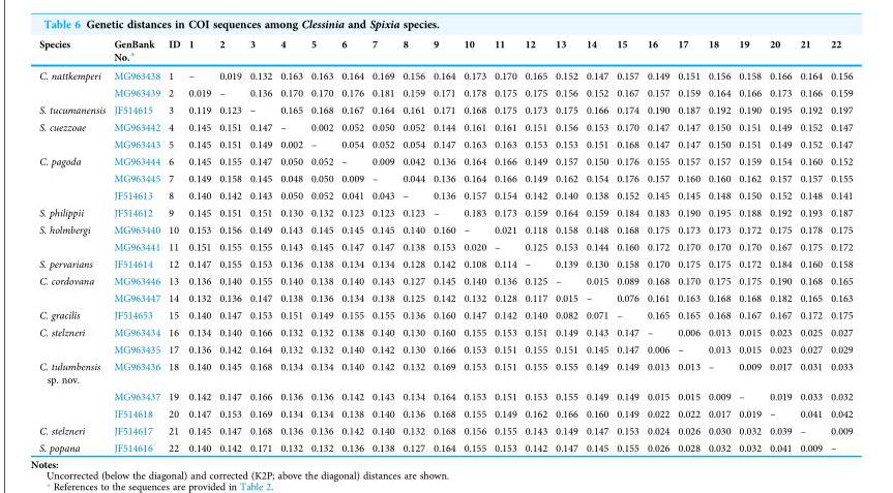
<table><thead><tr><td>Species</td><td>GenBank No.*</td><td>ID</td><td>1</td><td>2</td><td>3</td><td>4</td><td>5</td><td>6</td><td>7</td><td>8</td><td>9</td><td>10</td><td>11</td><td>12</td><td>13</td><td>14</td><td>15</td><td>16</td><td>17</td><td>18</td><td>19</td><td>20</td><td>21</td><td>22</td></tr></thead><tbody><tr><td rowspan="2">C. nattkemperi</td><td>MG963438</td><td>1</td><td>–</td><td>0.019</td><td>0.132</td><td>0.163</td><td>0.163</td><td>0.164</td><td>0.169</td><td>0.156</td><td>0.164</td><td>0.173</td><td>0.170</td><td>0.165</td><td>0.152</td><td>0.147</td><td>0.157</td><td>0.149</td><td>0.151</td><td>0.156</td><td>0.158</td><td>0.166</td><td>0.164</td><td>0.156</td></tr><tr><td>MG963439</td><td>2</td><td>0.019</td><td>–</td><td>0.136</td><td>0.170</td><td>0.170</td><td>0.176</td><td>0.181</td><td>0.159</td><td>0.171</td><td>0.178</td><td>0.175</td><td>0.175</td><td>0.156</td><td>0.152</td><td>0.167</td><td>0.157</td><td>0.159</td><td>0.164</td><td>0.166</td><td>0.173</td><td>0.166</td><td>0.159</td></tr><tr><td>S. tucumanensis</td><td>JF514615</td><td>3</td><td>0.119</td><td>0.123</td><td>–</td><td>0.165</td><td>0.168</td><td>0.167</td><td>0.164</td><td>0.161</td><td>0.171</td><td>0.168</td><td>0.175</td><td>0.173</td><td>0.175</td><td>0.166</td><td>0.174</td><td>0.190</td><td>0.187</td><td>0.192</td><td>0.190</td><td>0.195</td><td>0.192</td><td>0.197</td></tr><tr><td rowspan="2">S. cuezzoae</td><td>MG963442</td><td>4</td><td>0.145</td><td>0.151</td><td>0.147</td><td>–</td><td>0.002</td><td>0.052</td><td>0.050</td><td>0.052</td><td>0.144</td><td>0.161</td><td>0.161</td><td>0.151</td><td>0.156</td><td>0.153</td><td>0.170</td><td>0.147</td><td>0.147</td><td>0.150</td><td>0.151</td><td>0.149</td><td>0.152</td><td>0.147</td></tr><tr><td>MG963443</td><td>5</td><td>0.145</td><td>0.151</td><td>0.149</td><td>0.002</td><td>–</td><td>0.054</td><td>0.052</td><td>0.054</td><td>0.147</td><td>0.163</td><td>0.163</td><td>0.153</td><td>0.153</td><td>0.151</td><td>0.168</td><td>0.147</td><td>0.147</td><td>0.150</td><td>0.151</td><td>0.149</td><td>0.152</td><td>0.147</td></tr><tr><td rowspan="3">C. pagoda</td><td>MG963444</td><td>6</td><td>0.145</td><td>0.155</td><td>0.147</td><td>0.050</td><td>0.052</td><td>–</td><td>0.009</td><td>0.042</td><td>0.136</td><td>0.164</td><td>0.166</td><td>0.149</td><td>0.157</td><td>0.150</td><td>0.176</td><td>0.155</td><td>0.157</td><td>0.157</td><td>0.159</td><td>0.154</td><td>0.160</td><td>0.152</td></tr><tr><td>MG963445</td><td>7</td><td>0.149</td><td>0.158</td><td>0.145</td><td>0.048</td><td>0.050</td><td>0.009</td><td>–</td><td>0.044</td><td>0.136</td><td>0.164</td><td>0.166</td><td>0.149</td><td>0.162</td><td>0.154</td><td>0.176</td><td>0.157</td><td>0.160</td><td>0.160</td><td>0.162</td><td>0.157</td><td>0.157</td><td>0.155</td></tr><tr><td>JF514613</td><td>8</td><td>0.140</td><td>0.142</td><td>0.143</td><td>0.050</td><td>0.052</td><td>0.041</td><td>0.043</td><td>–</td><td>0.136</td><td>0.157</td><td>0.154</td><td>0.142</td><td>0.140</td><td>0.138</td><td>0.152</td><td>0.145</td><td>0.145</td><td>0.148</td><td>0.150</td><td>0.152</td><td>0.148</td><td>0.141</td></tr><tr><td>S. philippii</td><td>JF514612</td><td>9</td><td>0.145</td><td>0.151</td><td>0.151</td><td>0.130</td><td>0.132</td><td>0.123</td><td>0.123</td><td>0.123</td><td>–</td><td>0.183</td><td>0.173</td><td>0.159</td><td>0.164</td><td>0.159</td><td>0.184</td><td>0.183</td><td>0.190</td><td>0.195</td><td>0.188</td><td>0.192</td><td>0.193</td><td>0.187</td></tr><tr><td rowspan="2">S. holmbergi</td><td>MG963440</td><td>10</td><td>0.153</td><td>0.156</td><td>0.149</td><td>0.143</td><td>0.145</td><td>0.145</td><td>0.145</td><td>0.140</td><td>0.160</td><td>–</td><td>0.021</td><td>0.118</td><td>0.158</td><td>0.148</td><td>0.168</td><td>0.175</td><td>0.173</td><td>0.173</td><td>0.172</td><td>0.175</td><td>0.178</td><td>0.175</td></tr><tr><td>MG963441</td><td>11</td><td>0.151</td><td>0.155</td><td>0.155</td><td>0.143</td><td>0.145</td><td>0.147</td><td>0.147</td><td>0.138</td><td>0.153</td><td>0.020</td><td>–</td><td>0.125</td><td>0.153</td><td>0.144</td><td>0.160</td><td>0.172</td><td>0.170</td><td>0.170</td><td>0.170</td><td>0.167</td><td>0.175</td><td>0.172</td></tr><tr><td>S. pervarians</td><td>JF514614</td><td>12</td><td>0.147</td><td>0.155</td><td>0.153</td><td>0.136</td><td>0.138</td><td>0.134</td><td>0.134</td><td>0.128</td><td>0.142</td><td>0.108</td><td>0.114</td><td>–</td><td>0.139</td><td>0.130</td><td>0.158</td><td>0.170</td><td>0.175</td><td>0.175</td><td>0.172</td><td>0.184</td><td>0.160</td><td>0.158</td></tr><tr><td rowspan="2">C. cordovana</td><td>MG963446</td><td>13</td><td>0.136</td><td>0.140</td><td>0.155</td><td>0.140</td><td>0.138</td><td>0.140</td><td>0.143</td><td>0.127</td><td>0.145</td><td>0.140</td><td>0.136</td><td>0.125</td><td>–</td><td>0.015</td><td>0.089</td><td>0.168</td><td>0.170</td><td>0.175</td><td>0.175</td><td>0.190</td><td>0.168</td><td>0.165</td></tr><tr><td>MG963447</td><td>14</td><td>0.132</td><td>0.136</td><td>0.147</td><td>0.138</td><td>0.136</td><td>0.134</td><td>0.138</td><td>0.125</td><td>0.142</td><td>0.132</td><td>0.128</td><td>0.117</td><td>0.015</td><td>–</td><td>0.076</td><td>0.161</td><td>0.163</td><td>0.168</td><td>0.168</td><td>0.182</td><td>0.165</td><td>0.163</td></tr><tr><td>C. gracilis</td><td>JF514653</td><td>15</td><td>0.140</td><td>0.147</td><td>0.153</td><td>0.151</td><td>0.149</td><td>0.155</td><td>0.155</td><td>0.136</td><td>0.160</td><td>0.147</td><td>0.142</td><td>0.140</td><td>0.082</td><td>0.071</td><td>–</td><td>0.165</td><td>0.165</td><td>0.168</td><td>0.167</td><td>0.167</td><td>0.172</td><td>0.175</td></tr><tr><td rowspan="2">C. stelzneri</td><td>MG963434</td><td>16</td><td>0.134</td><td>0.140</td><td>0.166</td><td>0.132</td><td>0.132</td><td>0.138</td><td>0.140</td><td>0.130</td><td>0.160</td><td>0.155</td><td>0.153</td><td>0.151</td><td>0.149</td><td>0.143</td><td>0.147</td><td>–</td><td>0.006</td><td>0.013</td><td>0.015</td><td>0.023</td><td>0.025</td><td>0.027</td></tr><tr><td>MG963435</td><td>17</td><td>0.136</td><td>0.142</td><td>0.164</td><td>0.132</td><td>0.132</td><td>0.140</td><td>0.142</td><td>0.130</td><td>0.166</td><td>0.153</td><td>0.151</td><td>0.155</td><td>0.151</td><td>0.145</td><td>0.147</td><td>0.006</td><td>–</td><td>0.013</td><td>0.015</td><td>0.023</td><td>0.027</td><td>0.029</td></tr><tr><td rowspan="3">C. tulumbensis sp. nov.</td><td>MG963436</td><td>18</td><td>0.140</td><td>0.145</td><td>0.168</td><td>0.134</td><td>0.134</td><td>0.140</td><td>0.142</td><td>0.132</td><td>0.169</td><td>0.153</td><td>0.151</td><td>0.155</td><td>0.155</td><td>0.149</td><td>0.149</td><td>0.013</td><td>0.013</td><td>–</td><td>0.009</td><td>0.017</td><td>0.031</td><td>0.033</td></tr><tr><td>MG963437</td><td>19</td><td>0.142</td><td>0.147</td><td>0.166</td><td>0.136</td><td>0.136</td><td>0.142</td><td>0.143</td><td>0.134</td><td>0.164</td><td>0.153</td><td>0.151</td><td>0.153</td><td>0.155</td><td>0.149</td><td>0.149</td><td>0.015</td><td>0.015</td><td>0.009</td><td>–</td><td>0.019</td><td>0.033</td><td>0.032</td></tr><tr><td>JF514618</td><td>20</td><td>0.147</td><td>0.153</td><td>0.169</td><td>0.134</td><td>0.134</td><td>0.138</td><td>0.140</td><td>0.136</td><td>0.168</td><td>0.155</td><td>0.149</td><td>0.162</td><td>0.166</td><td>0.160</td><td>0.149</td><td>0.022</td><td>0.022</td><td>0.017</td><td>0.019</td><td>–</td><td>0.041</td><td>0.042</td></tr><tr><td>C. stelzneri</td><td>JF514617</td><td>21</td><td>0.145</td><td>0.147</td><td>0.168</td><td>0.136</td><td>0.136</td><td>0.142</td><td>0.140</td><td>0.132</td><td>0.168</td><td>0.156</td><td>0.155</td><td>0.143</td><td>0.149</td><td>0.147</td><td>0.153</td><td>0.024</td><td>0.026</td><td>0.030</td><td>0.032</td><td>0.039</td><td>–</td><td>0.009</td></tr><tr><td>S. popana</td><td>JF514616</td><td>22</td><td>0.140</td><td>0.142</td><td>0.171</td><td>0.132</td><td>0.132</td><td>0.136</td><td>0.138</td><td>0.127</td><td>0.164</td><td>0.155</td><td>0.153</td><td>0.142</td><td>0.147</td><td>0.145</td><td>0.155</td><td>0.026</td><td>0.028</td><td>0.032</td><td>0.032</td><td>0.041</td><td>0.009</td><td>–</td></tr></tbody></table>